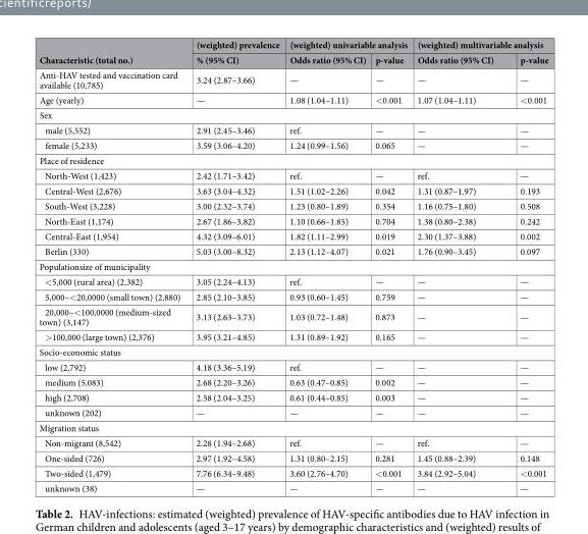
<table><thead><tr><td rowspan="2">Characteristic (total no.)</td><td rowspan="2">(weighted) prevalence % (95% CI)</td><td colspan="2">(weighted) univariable analysis</td><td colspan="2">(weighted) multivariable analysis</td></tr><tr><td>Odds ratio (95% CI)</td><td>p-value</td><td>Odds ratio (95% CI)</td><td>p-value</td></tr></thead><tbody><tr><td>Anti-HAV tested and vaccination card available (10,785)</td><td>3.24 (2.87–3.66)</td><td>—</td><td>—</td><td>—</td><td>—</td></tr><tr><td>Age (yearly)</td><td>—</td><td>1.08 (1.04–1.11)</td><td>&lt;0.001</td><td>1.07 (1.04–1.11)</td><td>&lt;0.001</td></tr><tr><td colspan="6">Sex</td></tr><tr><td>male (5,552)</td><td>2.91 (2.45–3.46)</td><td>ref.</td><td>—</td><td>—</td><td>—</td></tr><tr><td>female (5,233)</td><td>3.59 (3.06–4.20)</td><td>1.24 (0.99–1.56)</td><td>0.065</td><td>—</td><td>—</td></tr><tr><td colspan="6">Place of residence</td></tr><tr><td>North-West (1,423)</td><td>2.42 (1.71–3.42)</td><td>ref.</td><td>—</td><td>ref.</td><td>—</td></tr><tr><td>Central-West (2,676)</td><td>3.63 (3.04–4.32)</td><td>1.51 (1.02–2.26)</td><td>0.042</td><td>1.31 (0.87–1.97)</td><td>0.193</td></tr><tr><td>South-West (3,228)</td><td>3.00 (2.32–3.74)</td><td>1.23 (0.80–1.89)</td><td>0.354</td><td>1.16 (0.75–1.80)</td><td>0.508</td></tr><tr><td>North-East (1,174)</td><td>2.67 (1.86–3.82)</td><td>1.10 (0.66–1.85)</td><td>0.704</td><td>1.38 (0.80–2.38)</td><td>0.242</td></tr><tr><td>Central-East (1,954)</td><td>4.32 (3.09–6.01)</td><td>1.82 (1.11–2.99)</td><td>0.019</td><td>2.30 (1.37–3.88)</td><td>0.002</td></tr><tr><td>Berlin (330)</td><td>5.03 (3.00–8.32)</td><td>2.13 (1.12–4.07)</td><td>0.021</td><td>1.76 (0.90–3.45)</td><td>0.097</td></tr><tr><td colspan="6">Populationsize of municipality</td></tr><tr><td>&lt;5,000 (rural area) (2,382)</td><td>3.05 (2.24–4.13)</td><td>ref.</td><td>—</td><td>—</td><td>—</td></tr><tr><td>5,000–&lt;20,0000 (small town) (2,880)</td><td>2.85 (2.10–3.85)</td><td>0.93 (0.60–1.45)</td><td>0.759</td><td>—</td><td>—</td></tr><tr><td>20,000–&lt;100,0000 (medium-sized town) (3,147)</td><td>3.13 (2.63–3.73)</td><td>1.03 (0.72–1.48)</td><td>0.873</td><td>—</td><td>—</td></tr><tr><td>&gt;100,000 (large town) (2,376)</td><td>3.95 (3.21–4.85)</td><td>1.31 (0.89–1.92)</td><td>0.165</td><td>—</td><td>—</td></tr><tr><td colspan="6">Socio-economic status</td></tr><tr><td>low (2,792)</td><td>4.18 (3.36–5.19)</td><td>ref.</td><td>—</td><td>—</td><td>—</td></tr><tr><td>medium (5,083)</td><td>2.68 (2.20–3.26)</td><td>0.63 (0.47–0.85)</td><td>0.002</td><td>—</td><td>—</td></tr><tr><td>high (2,708)</td><td>2.58 (2.04–3.25)</td><td>0.61 (0.44–0.85)</td><td>0.003</td><td>—</td><td>—</td></tr><tr><td>unknown (202)</td><td>—</td><td>—</td><td>—</td><td>—</td><td>—</td></tr><tr><td colspan="6">Migration status</td></tr><tr><td>Non-migrant (8,542)</td><td>2.28 (1.94–2.68)</td><td>ref.</td><td>—</td><td>ref.</td><td>—</td></tr><tr><td>One-sided (726)</td><td>2.97 (1.92–4.58)</td><td>1.31 (0.80–2.15)</td><td>0.281</td><td>1.45 (0.88–2.39)</td><td>0.148</td></tr><tr><td>Two-sided (1,479)</td><td>7.76 (6.34–9.48)</td><td>3.60 (2.76–4.70)</td><td>&lt;0.001</td><td>3.84 (2.92–5.04)</td><td>&lt;0.001</td></tr><tr><td>unknown (38)</td><td>—</td><td>—</td><td>—</td><td>—</td><td>—</td></tr></tbody></table>